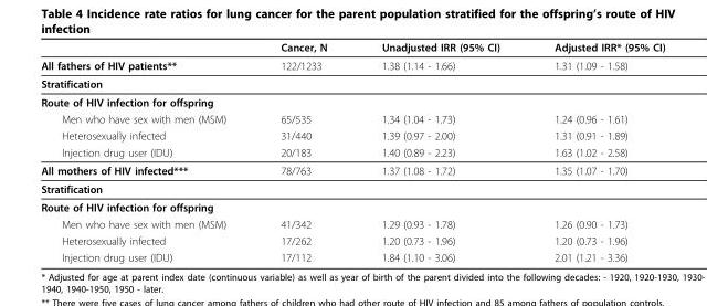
<table><thead><tr><td></td><td>Cancer, N</td><td>Unadjusted IRR (95% CI)</td><td>Adjusted IRR* (95% CI)</td></tr></thead><tbody><tr><td>All fathers of HIV patients**</td><td>122/1233</td><td>1.38 (1.14 - 1.66)</td><td>1.31 (1.09 - 1.58)</td></tr><tr><td colspan="4">Stratification</td></tr><tr><td colspan="4">Route of HIV infection for offspring</td></tr><tr><td>Men who have sex with men (MSM)</td><td>65/535</td><td>1.34 (1.04 - 1.73)</td><td>1.24 (0.96 - 1.61)</td></tr><tr><td>Heterosexually infected</td><td>31/440</td><td>1.39 (0.97 - 2.00)</td><td>1.31 (0.91 - 1.89)</td></tr><tr><td>Injection drug user (IDU)</td><td>20/183</td><td>1.40 (0.89 - 2.23)</td><td>1.63 (1.02 - 2.58)</td></tr><tr><td>All mothers of HIV infected***</td><td>78/763</td><td>1.37 (1.08 - 1.72)</td><td>1.35 (1.07 - 1.70)</td></tr><tr><td colspan="4">Stratification</td></tr><tr><td colspan="4">Route of HIV infection for offspring</td></tr><tr><td>Men who have sex with men (MSM)</td><td>41/342</td><td>1.29 (0.93 - 1.78)</td><td>1.26 (0.90 - 1.73)</td></tr><tr><td>Heterosexually infected</td><td>17/262</td><td>1.20 (0.73 - 1.96)</td><td>1.20 (0.73 - 1.96)</td></tr><tr><td>Injection drug user (IDU)</td><td>17/112</td><td>1.84 (1.10 - 3.06)</td><td>2.01 (1.21 - 3.36)</td></tr></tbody></table>